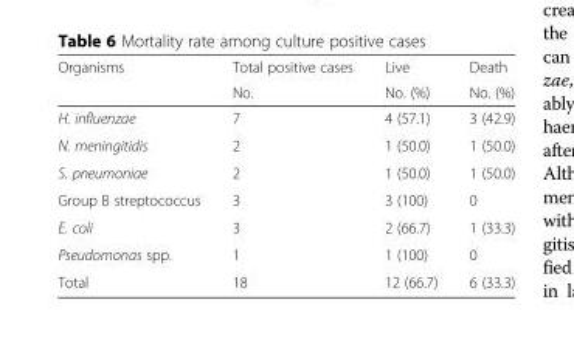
<table><thead><tr><td rowspan="2">Organisms</td><td rowspan="2">Total positive cases No.</td><td rowspan="2">Live No. (%)</td><td rowspan="2">Death No. (%)</td></tr><tr></tr></thead><tbody><tr><td>H. influenzae</td><td>7</td><td>4 (57.1)</td><td>3 (42.9)</td></tr><tr><td>N. meningitidis</td><td>2</td><td>1 (50.0)</td><td>1 (50.0)</td></tr><tr><td>S. pneumoniae</td><td>2</td><td>1 (50.0)</td><td>1 (50.0)</td></tr><tr><td>Group B streptococcus</td><td>3</td><td>3 (100)</td><td>0</td></tr><tr><td>E. coli</td><td>3</td><td>2 (66.7)</td><td>1 (33.3)</td></tr><tr><td>Pseudomonas spp.</td><td>1</td><td>1 (100)</td><td>0</td></tr><tr><td>Total</td><td>18</td><td>12 (66.7)</td><td>6 (33.3)</td></tr></tbody></table>